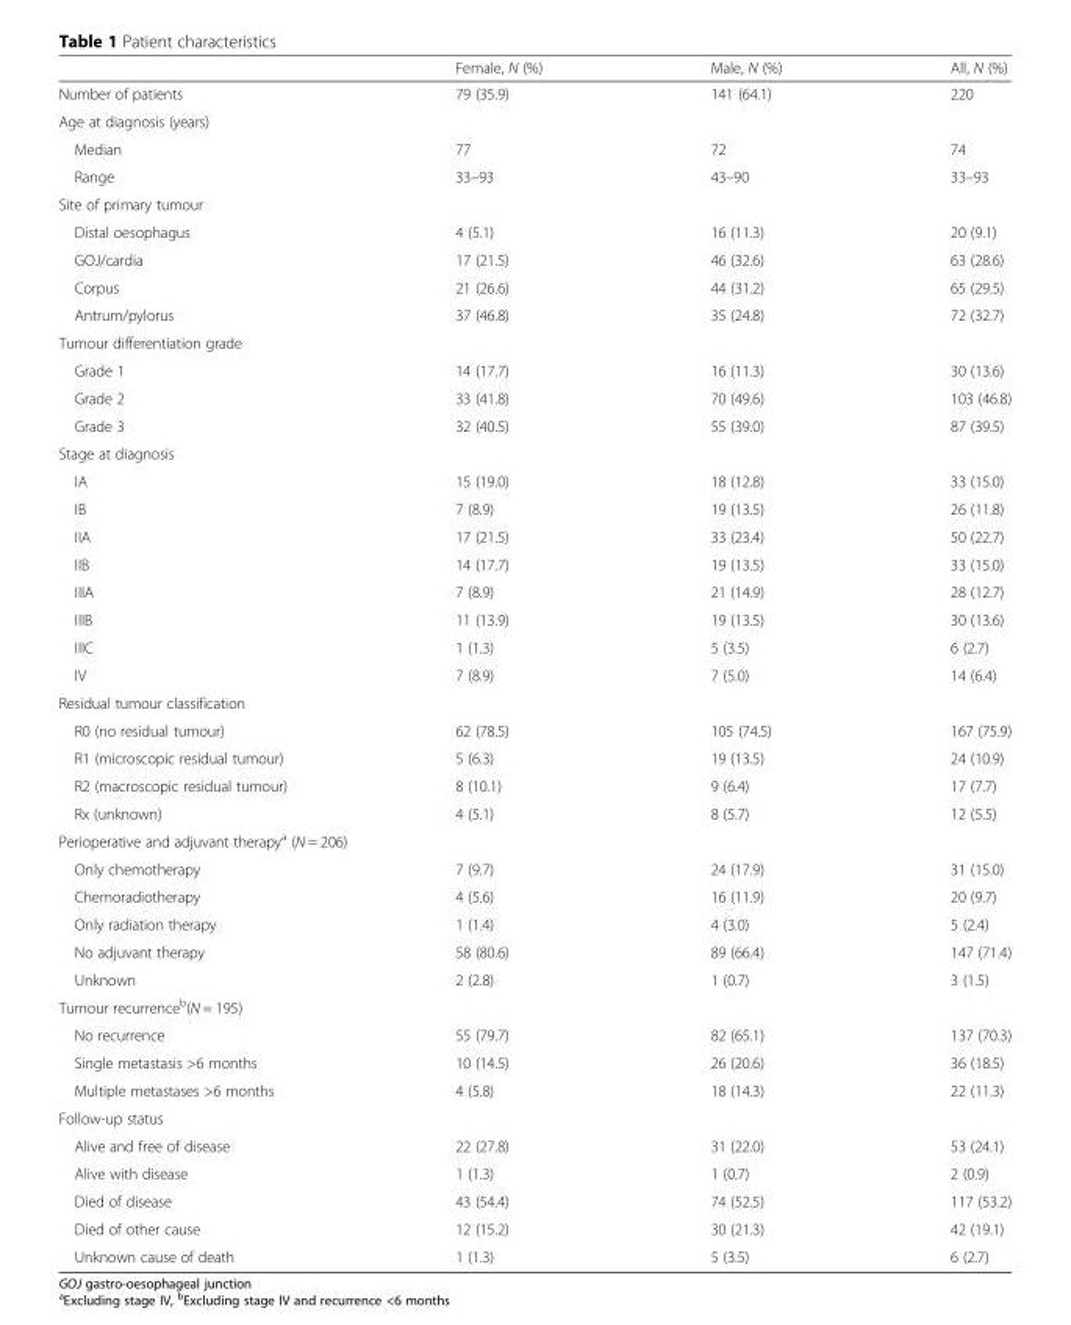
<table><thead><tr><td></td><td>Female, N (%)</td><td>Male, N (%)</td><td>All, N (%)</td></tr></thead><tbody><tr><td>Number of patients</td><td>79 (35.9)</td><td>141 (64.1)</td><td>220</td></tr><tr><td colspan="4">Age at diagnosis (years)</td></tr><tr><td>Median</td><td>77</td><td>72</td><td>74</td></tr><tr><td>Range</td><td>33–93</td><td>43–90</td><td>33–93</td></tr><tr><td colspan="4">Site of primary tumour</td></tr><tr><td>Distal oesophagus</td><td>4 (5.1)</td><td>16 (11.3)</td><td>20 (9.1)</td></tr><tr><td>GOJ/cardia</td><td>17 (21.5)</td><td>46 (32.6)</td><td>63 (28.6)</td></tr><tr><td>Corpus</td><td>21 (26.6)</td><td>44 (31.2)</td><td>65 (29.5)</td></tr><tr><td>Antrum/pylorus</td><td>37 (46.8)</td><td>35 (24.8)</td><td>72 (32.7)</td></tr><tr><td colspan="4">Tumour differentiation grade</td></tr><tr><td>Grade 1</td><td>14 (17.7)</td><td>16 (11.3)</td><td>30 (13.6)</td></tr><tr><td>Grade 2</td><td>33 (41.8)</td><td>70 (49.6)</td><td>103 (46.8)</td></tr><tr><td>Grade 3</td><td>32 (40.5)</td><td>55 (39.0)</td><td>87 (39.5)</td></tr><tr><td colspan="4">Stage at diagnosis</td></tr><tr><td>IA</td><td>15 (19.0)</td><td>18 (12.8)</td><td>33 (15.0)</td></tr><tr><td>IB</td><td>7 (8.9)</td><td>19 (13.5)</td><td>26 (11.8)</td></tr><tr><td>IIA</td><td>17 (21.5)</td><td>33 (23.4)</td><td>50 (22.7)</td></tr><tr><td>IIB</td><td>14 (17.7)</td><td>19 (13.5)</td><td>33 (15.0)</td></tr><tr><td>IIIA</td><td>7 (8.9)</td><td>21 (14.9)</td><td>28 (12.7)</td></tr><tr><td>IIIB</td><td>11 (13.9)</td><td>19 (13.5)</td><td>30 (13.6)</td></tr><tr><td>IIIC</td><td>1 (1.3)</td><td>5 (3.5)</td><td>6 (2.7)</td></tr><tr><td>IV</td><td>7 (8.9)</td><td>7 (5.0)</td><td>14 (6.4)</td></tr><tr><td colspan="4">Residual tumour classification</td></tr><tr><td>R0 (no residual tumour)</td><td>62 (78.5)</td><td>105 (74.5)</td><td>167 (75.9)</td></tr><tr><td>R1 (microscopic residual tumour)</td><td>5 (6.3)</td><td>19 (13.5)</td><td>24 (10.9)</td></tr><tr><td>R2 (macroscopic residual tumour)</td><td>8 (10.1)</td><td>9 (6.4)</td><td>17 (7.7)</td></tr><tr><td>Rx (unknown)</td><td>4 (5.1)</td><td>8 (5.7)</td><td>12 (5.5)</td></tr><tr><td colspan="4">Perioperative and adjuvant therapy<sup>a</sup> (N = 206)</td></tr><tr><td>Only chemotherapy</td><td>7 (9.7)</td><td>24 (17.9)</td><td>31 (15.0)</td></tr><tr><td>Chemoradiotherapy</td><td>4 (5.6)</td><td>16 (11.9)</td><td>20 (9.7)</td></tr><tr><td>Only radiation therapy</td><td>1 (1.4)</td><td>4 (3.0)</td><td>5 (2.4)</td></tr><tr><td>No adjuvant therapy</td><td>58 (80.6)</td><td>89 (66.4)</td><td>147 (71.4)</td></tr><tr><td>Unknown</td><td>2 (2.8)</td><td>1 (0.7)</td><td>3 (1.5)</td></tr><tr><td colspan="4">Tumour recurrence<sup>b</sup>(N = 195)</td></tr><tr><td>No recurrence</td><td>55 (79.7)</td><td>82 (65.1)</td><td>137 (70.3)</td></tr><tr><td>Single metastasis &gt;6 months</td><td>10 (14.5)</td><td>26 (20.6)</td><td>36 (18.5)</td></tr><tr><td>Multiple metastases &gt;6 months</td><td>4 (5.8)</td><td>18 (14.3)</td><td>22 (11.3)</td></tr><tr><td colspan="4">Follow-up status</td></tr><tr><td>Alive and free of disease</td><td>22 (27.8)</td><td>31 (22.0)</td><td>53 (24.1)</td></tr><tr><td>Alive with disease</td><td>1 (1.3)</td><td>1 (0.7)</td><td>2 (0.9)</td></tr><tr><td>Died of disease</td><td>43 (54.4)</td><td>74 (52.5)</td><td>117 (53.2)</td></tr><tr><td>Died of other cause</td><td>12 (15.2)</td><td>30 (21.3)</td><td>42 (19.1)</td></tr><tr><td>Unknown cause of death</td><td>1 (1.3)</td><td>5 (3.5)</td><td>6 (2.7)</td></tr></tbody></table>